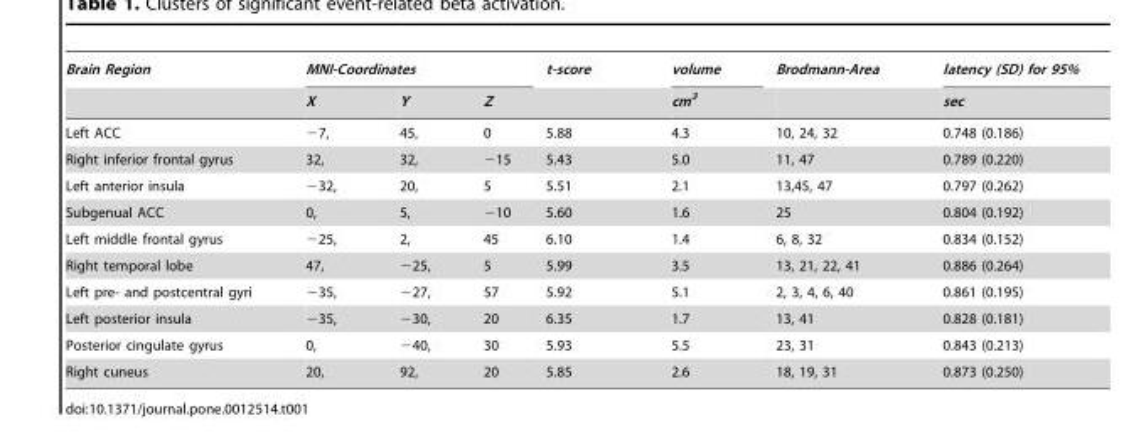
<table><thead><tr><td rowspan="2">Brain Region</td><td colspan="3">MNI-Coordinates</td><td rowspan="2">t-score</td><td rowspan="2">volume cm<sup>3</sup></td><td rowspan="2">Brodmann-Area</td><td rowspan="2">latency (SD) for 95% sec</td></tr><tr><td>X</td><td>Y</td><td>Z</td></tr></thead><tbody><tr><td>Left ACC</td><td>−7,</td><td>45,</td><td>0</td><td>5.88</td><td>4.3</td><td>10, 24, 32</td><td>0.748 (0.186)</td></tr><tr><td>Right inferior frontal gyrus</td><td>32,</td><td>32,</td><td>−15</td><td>5.43</td><td>5.0</td><td>11, 47</td><td>0.789 (0.220)</td></tr><tr><td>Left anterior insula</td><td>−32,</td><td>20,</td><td>5</td><td>5.51</td><td>2.1</td><td>13,45, 47</td><td>0.797 (0.262)</td></tr><tr><td>Subgenual ACC</td><td>0,</td><td>5,</td><td>−10</td><td>5.60</td><td>1.6</td><td>25</td><td>0.804 (0.192)</td></tr><tr><td>Left middle frontal gyrus</td><td>−25,</td><td>2,</td><td>45</td><td>6.10</td><td>1.4</td><td>6, 8, 32</td><td>0.834 (0.152)</td></tr><tr><td>Right temporal lobe</td><td>47,</td><td>−25,</td><td>5</td><td>5.99</td><td>3.5</td><td>13, 21, 22, 41</td><td>0.886 (0.264)</td></tr><tr><td>Left pre- and postcentral gyri</td><td>−35,</td><td>−27,</td><td>57</td><td>5.92</td><td>5.1</td><td>2, 3, 4, 6, 40</td><td>0.861 (0.195)</td></tr><tr><td>Left posterior insula</td><td>−35,</td><td>−30,</td><td>20</td><td>6.35</td><td>1.7</td><td>13, 41</td><td>0.828 (0.181)</td></tr><tr><td>Posterior cingulate gyrus</td><td>0,</td><td>−40,</td><td>30</td><td>5.93</td><td>5.5</td><td>23, 31</td><td>0.843 (0.213)</td></tr><tr><td>Right cuneus</td><td>20,</td><td>92,</td><td>20</td><td>5.85</td><td>2.6</td><td>18, 19, 31</td><td>0.873 (0.250)</td></tr></tbody></table>